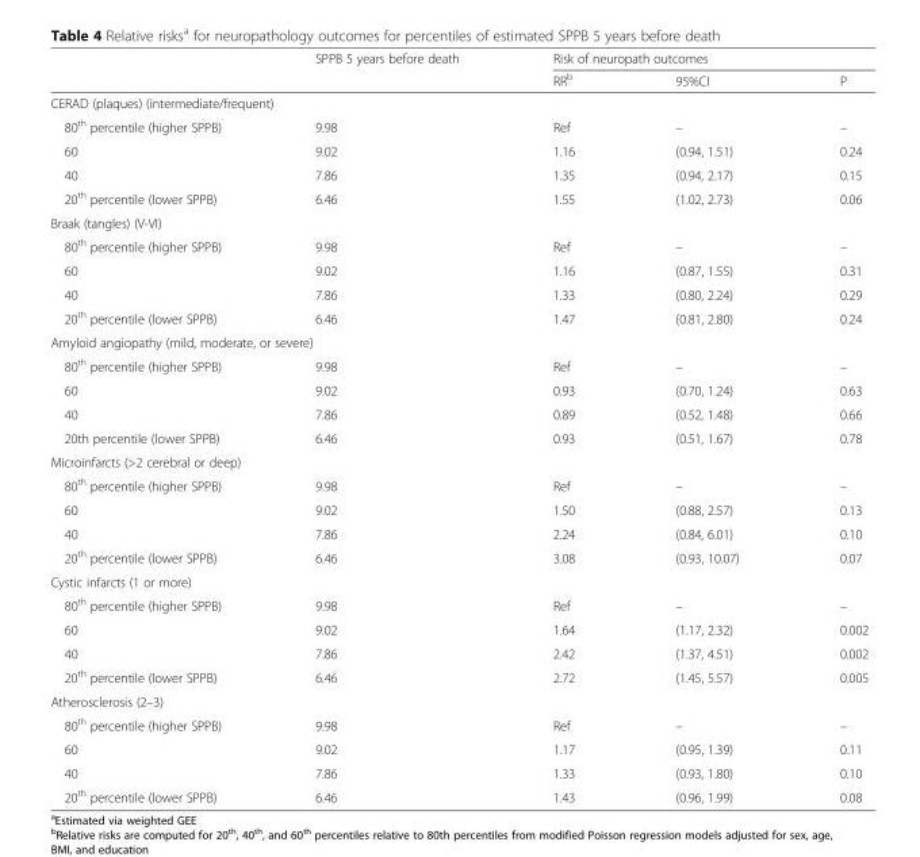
<table><thead><tr><td rowspan="2"></td><td rowspan="2">SPPB 5 years before death</td><td colspan="3">Risk of neuropath outcomes</td></tr><tr><td>RR<sup>b</sup></td><td>95%CI</td><td>P</td></tr></thead><tbody><tr><td colspan="5">CERAD (plaques) (intermediate/frequent)</td></tr><tr><td>80<sup>th</sup> percentile (higher SPPB)</td><td>9.98</td><td>Ref</td><td>–</td><td>–</td></tr><tr><td>60</td><td>9.02</td><td>1.16</td><td>(0.94, 1.51)</td><td>0.24</td></tr><tr><td>40</td><td>7.86</td><td>1.35</td><td>(0.94, 2.17)</td><td>0.15</td></tr><tr><td>20<sup>th</sup> percentile (lower SPPB)</td><td>6.46</td><td>1.55</td><td>(1.02, 2.73)</td><td>0.06</td></tr><tr><td colspan="5">Braak (tangles) (V-VI)</td></tr><tr><td>80<sup>th</sup> percentile (higher SPPB)</td><td>9.98</td><td>Ref</td><td>–</td><td>–</td></tr><tr><td>60</td><td>9.02</td><td>1.16</td><td>(0.87, 1.55)</td><td>0.31</td></tr><tr><td>40</td><td>7.86</td><td>1.33</td><td>(0.80, 2.24)</td><td>0.29</td></tr><tr><td>20<sup>th</sup> percentile (lower SPPB)</td><td>6.46</td><td>1.47</td><td>(0.81, 2.80)</td><td>0.24</td></tr><tr><td colspan="5">Amyloid angiopathy (mild, moderate, or severe)</td></tr><tr><td>80<sup>th</sup> percentile (higher SPPB)</td><td>9.98</td><td>Ref</td><td>–</td><td>–</td></tr><tr><td>60</td><td>9.02</td><td>0.93</td><td>(0.70, 1.24)</td><td>0.63</td></tr><tr><td>40</td><td>7.86</td><td>0.89</td><td>(0.52, 1.48)</td><td>0.66</td></tr><tr><td>20th percentile (lower SPPB)</td><td>6.46</td><td>0.93</td><td>(0.51, 1.67)</td><td>0.78</td></tr><tr><td colspan="5">Microinfarcts (&gt;2 cerebral or deep)</td></tr><tr><td>80<sup>th</sup> percentile (higher SPPB)</td><td>9.98</td><td>Ref</td><td>–</td><td>–</td></tr><tr><td>60</td><td>9.02</td><td>1.50</td><td>(0.88, 2.57)</td><td>0.13</td></tr><tr><td>40</td><td>7.86</td><td>2.24</td><td>(0.84, 6.01)</td><td>0.10</td></tr><tr><td>20<sup>th</sup> percentile (lower SPPB)</td><td>6.46</td><td>3.08</td><td>(0.93, 10.07)</td><td>0.07</td></tr><tr><td colspan="5">Cystic infarcts (1 or more)</td></tr><tr><td>80<sup>th</sup> percentile (higher SPPB)</td><td>9.98</td><td>Ref</td><td>–</td><td>–</td></tr><tr><td>60</td><td>9.02</td><td>1.64</td><td>(1.17, 2.32)</td><td>0.002</td></tr><tr><td>40</td><td>7.86</td><td>2.42</td><td>(1.37, 4.51)</td><td>0.002</td></tr><tr><td>20<sup>th</sup> percentile (lower SPPB)</td><td>6.46</td><td>2.72</td><td>(1.45, 5.57)</td><td>0.005</td></tr><tr><td colspan="5">Atherosclerosis (2–3)</td></tr><tr><td>80<sup>th</sup> percentile (higher SPPB)</td><td>9.98</td><td>Ref</td><td>–</td><td>–</td></tr><tr><td>60</td><td>9.02</td><td>1.17</td><td>(0.95, 1.39)</td><td>0.11</td></tr><tr><td>40</td><td>7.86</td><td>1.33</td><td>(0.93, 1.80)</td><td>0.10</td></tr><tr><td>20<sup>th</sup> percentile (lower SPPB)</td><td>6.46</td><td>1.43</td><td>(0.96, 1.99)</td><td>0.08</td></tr></tbody></table>